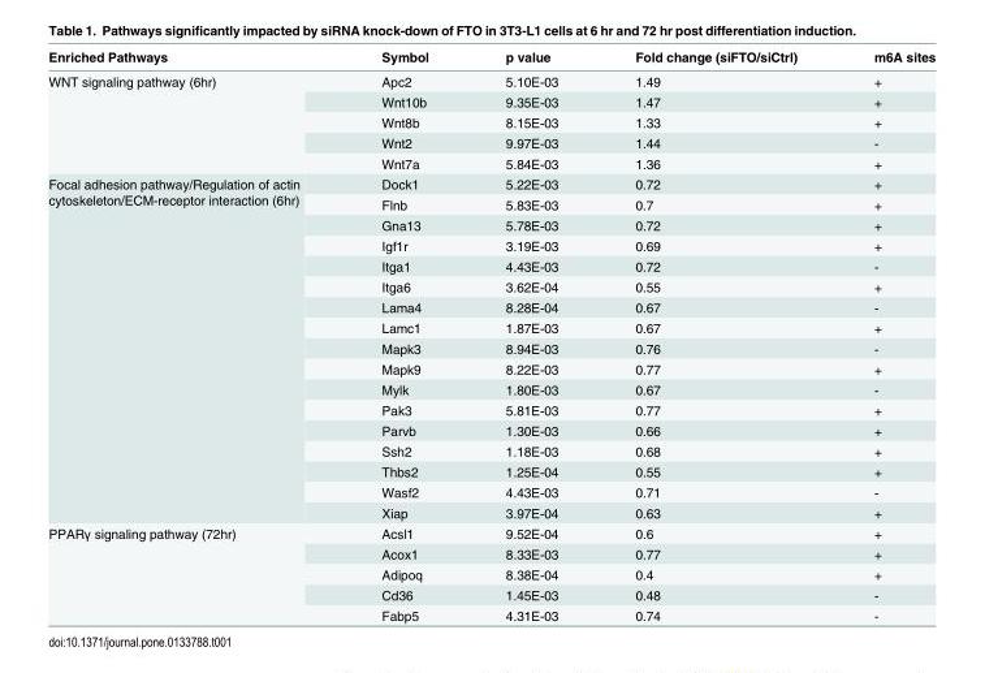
<table><thead><tr><td>Enriched Pathways</td><td>Symbol</td><td>p value</td><td>Fold change (siFTO/siCtrl)</td><td>m6A sites</td></tr></thead><tbody><tr><td rowspan="5">WNT signaling pathway (6hr)</td><td>Apc2</td><td>5.10E-03</td><td>1.49</td><td>+</td></tr><tr><td>Wnt10b</td><td>9.35E-03</td><td>1.47</td><td>+</td></tr><tr><td>Wnt8b</td><td>8.15E-03</td><td>1.33</td><td>+</td></tr><tr><td>Wnt2</td><td>9.97E-03</td><td>1.44</td><td>-</td></tr><tr><td>Wnt7a</td><td>5.84E-03</td><td>1.36</td><td>+</td></tr><tr><td rowspan="17">Focal adhesion pathway/Regulation of actin cytoskeleton/ECM-receptor interaction (6hr)</td><td>Dock1</td><td>5.22E-03</td><td>0.72</td><td>+</td></tr><tr><td>Flnb</td><td>5.83E-03</td><td>0.7</td><td>+</td></tr><tr><td>Gna13</td><td>5.78E-03</td><td>0.72</td><td>+</td></tr><tr><td>Igf1r</td><td>3.19E-03</td><td>0.69</td><td>+</td></tr><tr><td>Itga1</td><td>4.43E-03</td><td>0.72</td><td>-</td></tr><tr><td>Itga6</td><td>3.62E-04</td><td>0.55</td><td>+</td></tr><tr><td>Lama4</td><td>8.28E-04</td><td>0.67</td><td>-</td></tr><tr><td>Lamc1</td><td>1.87E-03</td><td>0.67</td><td>+</td></tr><tr><td>Mapk3</td><td>8.94E-03</td><td>0.76</td><td>-</td></tr><tr><td>Mapk9</td><td>8.22E-03</td><td>0.77</td><td>+</td></tr><tr><td>Mylk</td><td>1.80E-03</td><td>0.67</td><td>-</td></tr><tr><td>Pak3</td><td>5.81E-03</td><td>0.77</td><td>+</td></tr><tr><td>Parvb</td><td>1.30E-03</td><td>0.66</td><td>+</td></tr><tr><td>Ssh2</td><td>1.18E-03</td><td>0.68</td><td>+</td></tr><tr><td>Thbs2</td><td>1.25E-04</td><td>0.55</td><td>+</td></tr><tr><td>Wasf2</td><td>4.43E-03</td><td>0.71</td><td>-</td></tr><tr><td>Xiap</td><td>3.97E-04</td><td>0.63</td><td>+</td></tr><tr><td rowspan="5">PPARγ signaling pathway (72hr)</td><td>Acsl1</td><td>9.52E-04</td><td>0.6</td><td>+</td></tr><tr><td>Acox1</td><td>8.33E-03</td><td>0.77</td><td>+</td></tr><tr><td>Adipoq</td><td>8.38E-04</td><td>0.4</td><td>+</td></tr><tr><td>Cd36</td><td>1.45E-03</td><td>0.48</td><td>-</td></tr><tr><td>Fabp5</td><td>4.31E-03</td><td>0.74</td><td>-</td></tr></tbody></table>